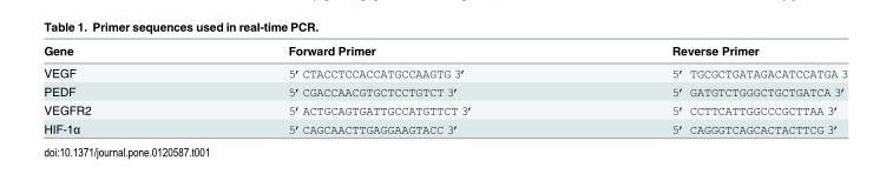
<table><thead><tr><td>Gene</td><td>Forward Primer</td><td>Reverse Primer</td></tr></thead><tbody><tr><td>VEGF</td><td>5’CTACCTCCACCATGCCAAGTG 3’</td><td>5’ TGCGCTGATAGACATCCATGA 3</td></tr><tr><td>PEDF</td><td>5’CGACCAACGTGCTCCTGTCT 3’</td><td>5’ GATGTCTGGGCTGCTGATCA 3’</td></tr><tr><td>VEGFR2</td><td>5’ACTGCAGTGATTGCCATGTTCT 3’</td><td>5’ CCTTCATTGGCCCGCTTAA 3’</td></tr><tr><td>HIF-1α</td><td>5’CAGCAACTTGAGGAAGTACC 3’</td><td>5’ CAGGGTCAGCACTACTTCG 3’</td></tr></tbody></table>